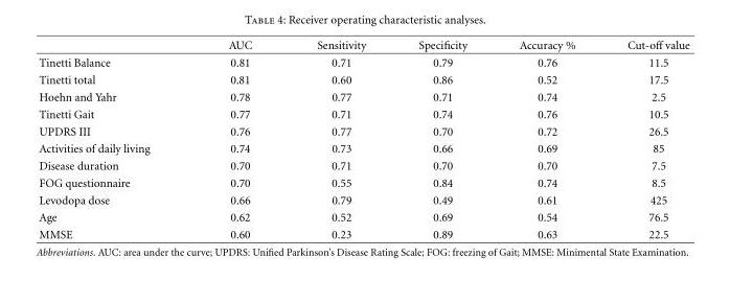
<table><thead><tr><td></td><td>AUC</td><td>Sensitivity</td><td>Specificity</td><td>Accuracy %</td><td>Cut-off value</td></tr></thead><tbody><tr><td>Tinetti Balance</td><td>0.81</td><td>0.71</td><td>0.79</td><td>0.76</td><td>11.5</td></tr><tr><td>Tinetti total</td><td>0.81</td><td>0.60</td><td>0.86</td><td>0.52</td><td>17.5</td></tr><tr><td>Hoehn and Yahr</td><td>0.78</td><td>0.77</td><td>0.71</td><td>0.74</td><td>2.5</td></tr><tr><td>Tinetti Gait</td><td>0.77</td><td>0.71</td><td>0.74</td><td>0.76</td><td>10.5</td></tr><tr><td>UPDRS III</td><td>0.76</td><td>0.77</td><td>0.70</td><td>0.72</td><td>26.5</td></tr><tr><td>Activities of daily living</td><td>0.74</td><td>0.73</td><td>0.66</td><td>0.69</td><td>85</td></tr><tr><td>Disease duration</td><td>0.70</td><td>0.71</td><td>0.70</td><td>0.70</td><td>7.5</td></tr><tr><td>FOG questionnaire</td><td>0.70</td><td>0.55</td><td>0.84</td><td>0.74</td><td>8.5</td></tr><tr><td>Levodopa dose</td><td>0.66</td><td>0.79</td><td>0.49</td><td>0.61</td><td>425</td></tr><tr><td>Age</td><td>0.62</td><td>0.52</td><td>0.69</td><td>0.54</td><td>76.5</td></tr><tr><td>MMSE</td><td>0.60</td><td>0.23</td><td>0.89</td><td>0.63</td><td>22.5</td></tr></tbody></table>